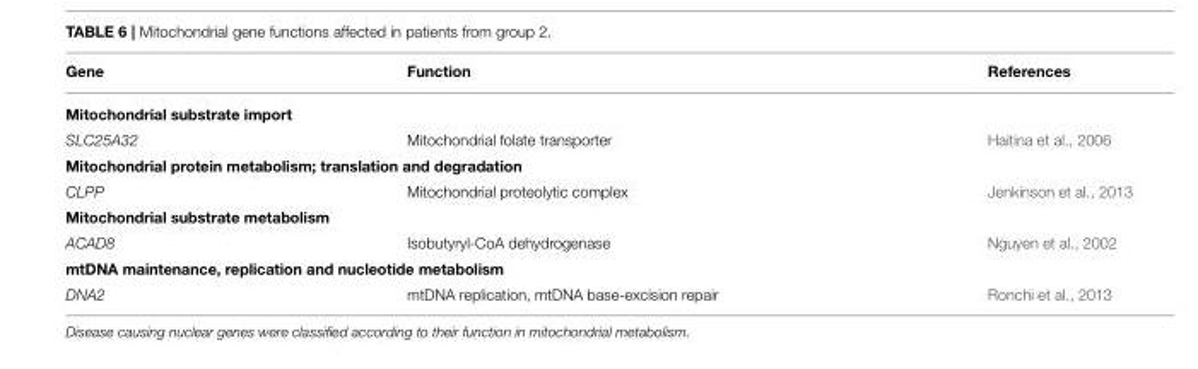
<table><thead><tr><td>Gene</td><td>Function</td><td>References</td></tr></thead><tbody><tr><td colspan="3">Mitochondrial substrate import</td></tr><tr><td>SLC25A32</td><td>Mitochondrial folate transporter</td><td>Haitina et al., 2006</td></tr><tr><td colspan="3">Mitochondrial protein metabolism; translation and degradation</td></tr><tr><td>CLPP</td><td>Mitochondrial proteolytic complex</td><td>Jenkinson et al., 2013</td></tr><tr><td colspan="3">Mitochondrial substrate metabolism</td></tr><tr><td>ACAD8</td><td>Isobutyryl-CoA dehydrogenase</td><td>Nguyen et al., 2002</td></tr><tr><td colspan="3">mtDNA maintenance, replication and nucleotide metabolism</td></tr><tr><td>DNA2</td><td>mtDNA replication, mtDNA base-excision repair</td><td>Ronchi et al., 2013</td></tr></tbody></table>